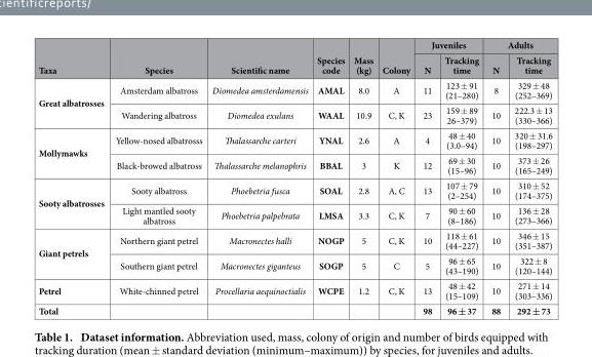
<table><thead><tr><td rowspan="2">Taxa</td><td rowspan="2">Species</td><td rowspan="2">Scientific name</td><td rowspan="2">Species code</td><td rowspan="2">Mass (kg)</td><td rowspan="2">Colony</td><td colspan="2">Juveniles</td><td colspan="2">Adults</td></tr><tr><td>N</td><td>Tracking time</td><td>N</td><td>Tracking time</td></tr></thead><tbody><tr><td rowspan="2">Great albatrosses</td><td>Amsterdam albatross</td><td>Diomedea amsterdamensis</td><td>AMAL</td><td>8.0</td><td>A</td><td>11</td><td>123 ± 91 (21–280)</td><td>8</td><td>329 ± 48 (252–369)</td></tr><tr><td>Wandering albatross</td><td>Diomedea exulans</td><td>WAAL</td><td>10.9</td><td>C, K</td><td>23</td><td>159 ± 89 26–379)</td><td>10</td><td>222.3 ± 13 (330–366)</td></tr><tr><td rowspan="2">Mollymawks</td><td>Yellow-nosed albatrosss</td><td>Thalassarche carteri</td><td>YNAL</td><td>2.6</td><td>A</td><td>4</td><td>48 ± 40 (3.0–94)</td><td>10</td><td>320 ± 31.6 (198–297)</td></tr><tr><td>Black-browed albatross</td><td>Thalassarche melanophris</td><td>BBAL</td><td>3</td><td>K</td><td>12</td><td>69 ± 30 (15–96)</td><td>10</td><td>373 ± 26 (165–249)</td></tr><tr><td rowspan="2">Sooty albatrosses</td><td>Sooty albatross</td><td>Phoebetria fusca</td><td>SOAL</td><td>2.8</td><td>A, C</td><td>13</td><td>107 ± 79 (2–254)</td><td>10</td><td>310 ± 52 (174–375)</td></tr><tr><td>Light mantled sooty albatross</td><td>Phoebetria palpebrata</td><td>LMSA</td><td>3.3</td><td>C, K</td><td>7</td><td>90 ± 60 (8–186)</td><td>10</td><td>136 ± 28 (273–366)</td></tr><tr><td rowspan="2">Giant petrels</td><td>Northern giant petrel</td><td>Macronectes halli</td><td>NOGP</td><td>5</td><td>C, K</td><td>10</td><td>118 ± 61 (44–227)</td><td>10</td><td>346 ± 15 (351–387)</td></tr><tr><td>Southern giant petrel</td><td>Macronectes giganteus</td><td>SOGP</td><td>5</td><td>C</td><td>5</td><td>96 ± 65 (43–190)</td><td>10</td><td>322 ± 8 (120–144)</td></tr><tr><td>Petrel</td><td>White-chinned petrel</td><td>Procellaria aequinoctialis</td><td>WCPE</td><td>1.2</td><td>C, K</td><td>13</td><td>48 ± 42 (15–109)</td><td>10</td><td>271 ± 14 (303–336)</td></tr><tr><td>Total</td><td></td><td></td><td></td><td></td><td></td><td>98</td><td>96 ± 37</td><td>88</td><td>292 ± 73</td></tr></tbody></table>